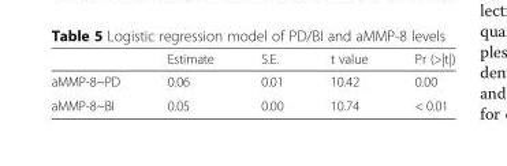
<table><thead><tr><td></td><td>Estimate</td><td>S.E.</td><td>t value</td><td>Pr (&gt;|t|)</td></tr></thead><tbody><tr><td>aMMP-8~PD</td><td>0.06</td><td>0.01</td><td>10.42</td><td>0.00</td></tr><tr><td>aMMP-8~BI</td><td>0.05</td><td>0.00</td><td>10.74</td><td>&lt; 0.01</td></tr></tbody></table>